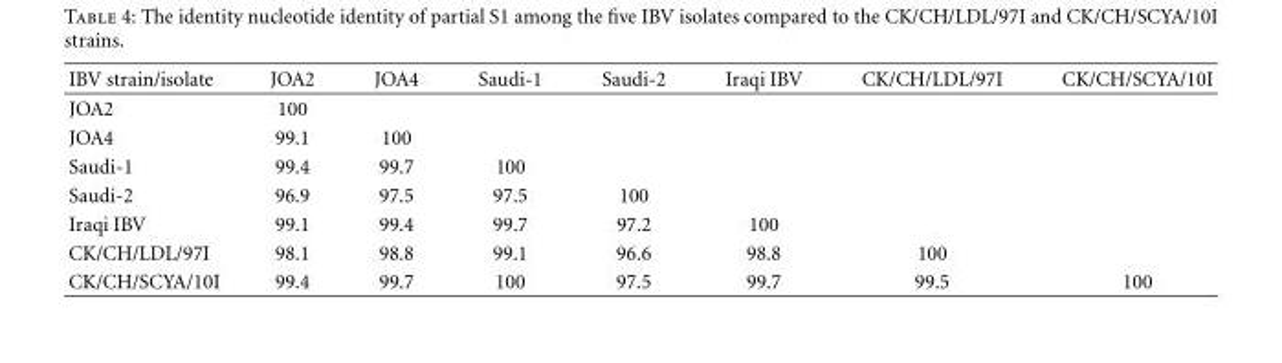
<table><thead><tr><td>IBV strain/isolate</td><td>JOA2</td><td>JOA4</td><td>Saudi-1</td><td>Saudi-2</td><td>Iraqi IBV</td><td>CK/CH/LDL/97I</td><td>CK/CH/SCYA/10I</td></tr></thead><tbody><tr><td>JOA2</td><td>100</td><td></td><td></td><td></td><td></td><td></td><td></td></tr><tr><td>JOA4</td><td>99.1</td><td>100</td><td></td><td></td><td></td><td></td><td></td></tr><tr><td>Saudi-1</td><td>99.4</td><td>99.7</td><td>100</td><td></td><td></td><td></td><td></td></tr><tr><td>Saudi-2</td><td>96.9</td><td>97.5</td><td>97.5</td><td>100</td><td></td><td></td><td></td></tr><tr><td>Iraqi IBV</td><td>99.1</td><td>99.4</td><td>99.7</td><td>97.2</td><td>100</td><td></td><td></td></tr><tr><td>CK/CH/LDL/97I</td><td>98.1</td><td>98.8</td><td>99.1</td><td>96.6</td><td>98.8</td><td>100</td><td></td></tr><tr><td>CK/CH/SCYA/10I</td><td>99.4</td><td>99.7</td><td>100</td><td>97.5</td><td>99.7</td><td>99.5</td><td>100</td></tr></tbody></table>